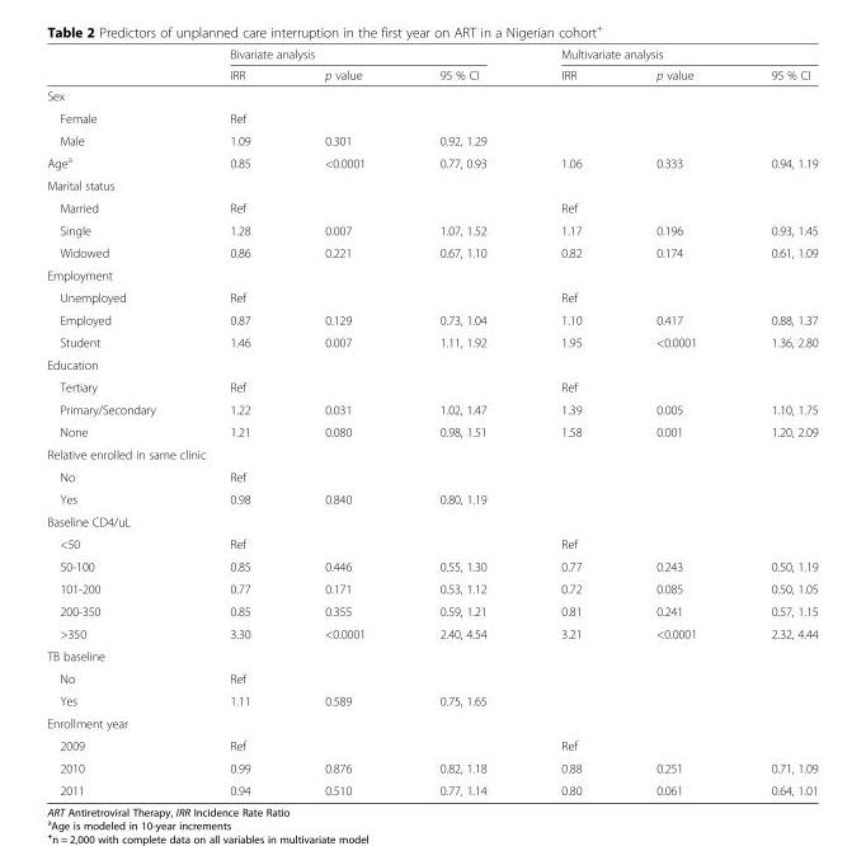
<table><thead><tr><td rowspan="2"></td><td colspan="3">Bivariate analysis</td><td colspan="3">Multivariate analysis</td></tr><tr><td>IRR</td><td>p value</td><td>95 % CI</td><td>IRR</td><td>p value</td><td>95 % CI</td></tr></thead><tbody><tr><td colspan="7">Sex</td></tr><tr><td>Female</td><td>Ref</td><td></td><td></td><td></td><td></td><td></td></tr><tr><td>Male</td><td>1.09</td><td>0.301</td><td>0.92, 1.29</td><td></td><td></td><td></td></tr><tr><td>Age<sup>a</sup></td><td>0.85</td><td>&lt;0.0001</td><td>0.77, 0.93</td><td>1.06</td><td>0.333</td><td>0.94, 1.19</td></tr><tr><td colspan="7">Marital status</td></tr><tr><td>Married</td><td>Ref</td><td></td><td></td><td>Ref</td><td></td><td></td></tr><tr><td>Single</td><td>1.28</td><td>0.007</td><td>1.07, 1.52</td><td>1.17</td><td>0.196</td><td>0.93, 1.45</td></tr><tr><td>Widowed</td><td>0.86</td><td>0.221</td><td>0.67, 1.10</td><td>0.82</td><td>0.174</td><td>0.61, 1.09</td></tr><tr><td colspan="7">Employment</td></tr><tr><td>Unemployed</td><td>Ref</td><td></td><td></td><td>Ref</td><td></td><td></td></tr><tr><td>Employed</td><td>0.87</td><td>0.129</td><td>0.73, 1.04</td><td>1.10</td><td>0.417</td><td>0.88, 1.37</td></tr><tr><td>Student</td><td>1.46</td><td>0.007</td><td>1.11, 1.92</td><td>1.95</td><td>&lt;0.0001</td><td>1.36, 2.80</td></tr><tr><td colspan="7">Education</td></tr><tr><td>Tertiary</td><td>Ref</td><td></td><td></td><td>Ref</td><td></td><td></td></tr><tr><td>Primary/Secondary</td><td>1.22</td><td>0.031</td><td>1.02, 1.47</td><td>1.39</td><td>0.005</td><td>1.10, 1.75</td></tr><tr><td>None</td><td>1.21</td><td>0.080</td><td>0.98, 1.51</td><td>1.58</td><td>0.001</td><td>1.20, 2.09</td></tr><tr><td colspan="7">Relative enrolled in same clinic</td></tr><tr><td>No</td><td>Ref</td><td></td><td></td><td></td><td></td><td></td></tr><tr><td>Yes</td><td>0.98</td><td>0.840</td><td>0.80, 1.19</td><td></td><td></td><td></td></tr><tr><td colspan="7">Baseline CD4/uL</td></tr><tr><td>&lt;50</td><td>Ref</td><td></td><td></td><td>Ref</td><td></td><td></td></tr><tr><td>50-100</td><td>0.85</td><td>0.446</td><td>0.55, 1.30</td><td>0.77</td><td>0.243</td><td>0.50, 1.19</td></tr><tr><td>101-200</td><td>0.77</td><td>0.171</td><td>0.53, 1.12</td><td>0.72</td><td>0.085</td><td>0.50, 1.05</td></tr><tr><td>200-350</td><td>0.85</td><td>0.355</td><td>0.59, 1.21</td><td>0.81</td><td>0.241</td><td>0.57, 1.15</td></tr><tr><td>&gt;350</td><td>3.30</td><td>&lt;0.0001</td><td>2.40, 4.54</td><td>3.21</td><td>&lt;0.0001</td><td>2.32, 4.44</td></tr><tr><td colspan="7">TB baseline</td></tr><tr><td>No</td><td>Ref</td><td></td><td></td><td></td><td></td><td></td></tr><tr><td>Yes</td><td>1.11</td><td>0.589</td><td>0.75, 1.65</td><td></td><td></td><td></td></tr><tr><td colspan="7">Enrollment year</td></tr><tr><td>2009</td><td>Ref</td><td></td><td></td><td>Ref</td><td></td><td></td></tr><tr><td>2010</td><td>0.99</td><td>0.876</td><td>0.82, 1.18</td><td>0.88</td><td>0.251</td><td>0.71, 1.09</td></tr><tr><td>2011</td><td>0.94</td><td>0.510</td><td>0.77, 1.14</td><td>0.80</td><td>0.061</td><td>0.64, 1.01</td></tr></tbody></table>